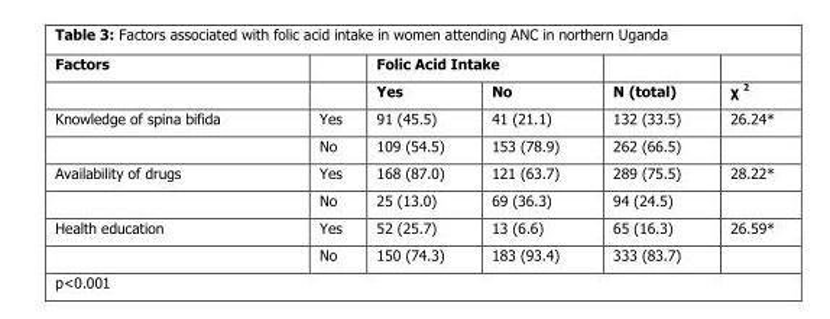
<table><thead><tr><td rowspan="2">Factors</td><td rowspan="2"></td><td colspan="2">Folic Acid Intake</td><td rowspan="2">N (total)</td><td rowspan="2">χ 2</td></tr><tr><td>Yes</td><td>No</td></tr></thead><tbody><tr><td rowspan="2">Knowledge of spina bifida</td><td>Yes</td><td>91 (45.5)</td><td>41 (21.1)</td><td>132 (33.5)</td><td>26.24*</td></tr><tr><td>No</td><td>109 (54.5)</td><td>153 (78.9)</td><td>262 (66.5)</td><td></td></tr><tr><td rowspan="2">Availability of drugs</td><td>Yes</td><td>168 (87.0)</td><td>121 (63.7)</td><td>289 (75.5)</td><td>28.22*</td></tr><tr><td>No</td><td>25 (13.0)</td><td>69 (36.3)</td><td>94 (24.5)</td><td></td></tr><tr><td rowspan="2">Health education</td><td>Yes</td><td>52 (25.7)</td><td>13 (6.6)</td><td>65 (16.3)</td><td>26.59*</td></tr><tr><td>No</td><td>150 (74.3)</td><td>183 (93.4)</td><td>333 (83.7)</td><td></td></tr></tbody></table>